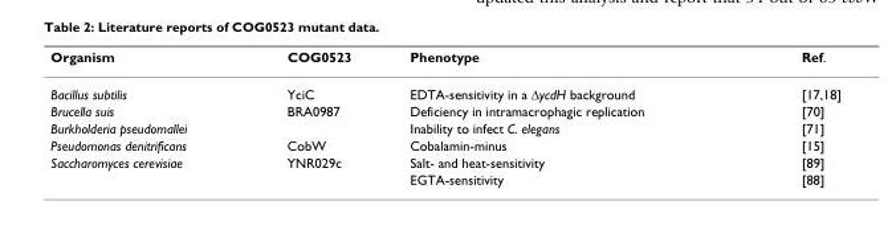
<table><thead><tr><td>Organism</td><td>COG0523</td><td>Phenotype</td><td>Ref.</td></tr></thead><tbody><tr><td>Bacillus subtilis</td><td>YciC</td><td>EDTA-sensitivity in a ΔycdH background</td><td>[17,18]</td></tr><tr><td>Brucella suis</td><td>BRA0987</td><td>Deficiency in intramacrophagic replication</td><td>[70]</td></tr><tr><td>Burkholderia pseudomallei</td><td></td><td>Inability to infect C. elegans</td><td>[71]</td></tr><tr><td>Pseudomonas denitrificans</td><td>CobW</td><td>Cobalamin-minus</td><td>[15]</td></tr><tr><td rowspan="2">Saccharomyces cerevisiae</td><td>YNR029c</td><td>Salt- and heat-sensitivity</td><td>[89]</td></tr><tr><td></td><td>EGTA-sensitivity</td><td>[88]</td></tr></tbody></table>